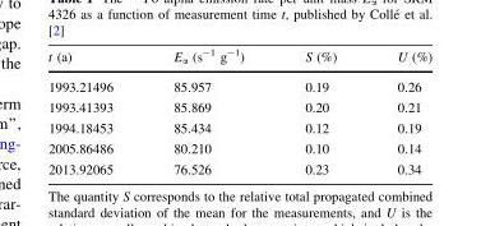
<table><thead><tr><td>t (a)</td><td>E<sub>α</sub> (s<sup>-1</sup> g<sup>-1</sup>)</td><td>S (%)</td><td>U (%)</td></tr></thead><tbody><tr><td>1993.21496</td><td>85.957</td><td>0.19</td><td>0.26</td></tr><tr><td>1993.41393</td><td>85.869</td><td>0.20</td><td>0.21</td></tr><tr><td>1994.18453</td><td>85.434</td><td>0.12</td><td>0.19</td></tr><tr><td>2005.86486</td><td>80.210</td><td>0.10</td><td>0.14</td></tr><tr><td>2013.92065</td><td>76.526</td><td>0.23</td><td>0.34</td></tr></tbody></table>